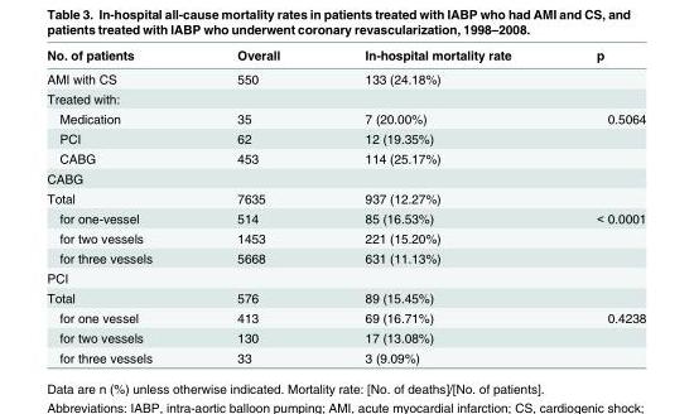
<table><thead><tr><td>No. of patients</td><td>Overall</td><td>In-hospital mortality rate</td><td>p</td></tr></thead><tbody><tr><td>AMI with CS</td><td>550</td><td>133 (24.18%)</td><td></td></tr><tr><td colspan="4">Treated with:</td></tr><tr><td>Medication</td><td>35</td><td>7 (20.00%)</td><td>0.5064</td></tr><tr><td>PCI</td><td>62</td><td>12 (19.35%)</td><td></td></tr><tr><td>CABG</td><td>453</td><td>114 (25.17%)</td><td></td></tr><tr><td colspan="4">CABG</td></tr><tr><td>Total</td><td>7635</td><td>937 (12.27%)</td><td></td></tr><tr><td>for one-vessel</td><td>514</td><td>85 (16.53%)</td><td>&lt; 0.0001</td></tr><tr><td>for two vessels</td><td>1453</td><td>221 (15.20%)</td><td></td></tr><tr><td>for three vessels</td><td>5668</td><td>631 (11.13%)</td><td></td></tr><tr><td colspan="4">PCI</td></tr><tr><td>Total</td><td>576</td><td>89 (15.45%)</td><td></td></tr><tr><td>for one vessel</td><td>413</td><td>69 (16.71%)</td><td>0.4238</td></tr><tr><td>for two vessels</td><td>130</td><td>17 (13.08%)</td><td></td></tr><tr><td>for three vessels</td><td>33</td><td>3 (9.09%)</td><td></td></tr></tbody></table>